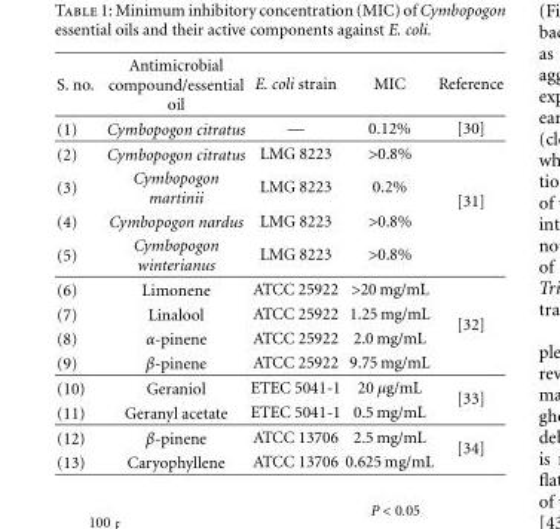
<table><thead><tr><td>S. no.</td><td>Antimicrobial compound/essential oil</td><td>E. coli strain</td><td>MIC</td><td>Reference</td></tr></thead><tbody><tr><td>(1)</td><td>Cymbopogon citratus</td><td>—</td><td>0.12%</td><td>[30]</td></tr><tr><td>(2)</td><td>Cymbopogon citratus</td><td>LMG 8223</td><td>&gt;0.8%</td><td></td></tr><tr><td>(3)</td><td>Cymbopogon martinii</td><td>LMG 8223</td><td>0.2%</td><td rowspan="2">[31]</td></tr><tr><td>(4)</td><td>Cymbopogon nardus</td><td>LMG 8223</td><td>&gt;0.8%</td></tr><tr><td>(5)</td><td>Cymbopogon winterianus</td><td>LMG 8223</td><td>&gt;0.8%</td><td></td></tr><tr><td>(6)</td><td>Limonene</td><td>ATCC 25922</td><td>&gt;20 mg/mL</td><td></td></tr><tr><td>(7)</td><td>Linalool</td><td>ATCC 25922</td><td>1.25 mg/mL</td><td rowspan="2">[32]</td></tr><tr><td>(8)</td><td>α-pinene</td><td>ATCC 25922</td><td>2.0 mg/mL</td></tr><tr><td>(9)</td><td>β-pinene</td><td>ATCC 25922</td><td>9.75 mg/mL</td><td></td></tr><tr><td>(10)</td><td>Geraniol</td><td>ETEC 5041-1</td><td>20 μg/mL</td><td rowspan="2">[33]</td></tr><tr><td>(11)</td><td>Geranyl acetate</td><td>ETEC 5041-1</td><td>0.5 mg/mL</td></tr><tr><td>(12)</td><td>β-pinene</td><td>ATCC 13706</td><td>2.5 mg/mL</td><td rowspan="2">[34]</td></tr><tr><td>(13)</td><td>Caryophyllene</td><td>ATCC 13706</td><td>0.625 mg/mL</td></tr></tbody></table>